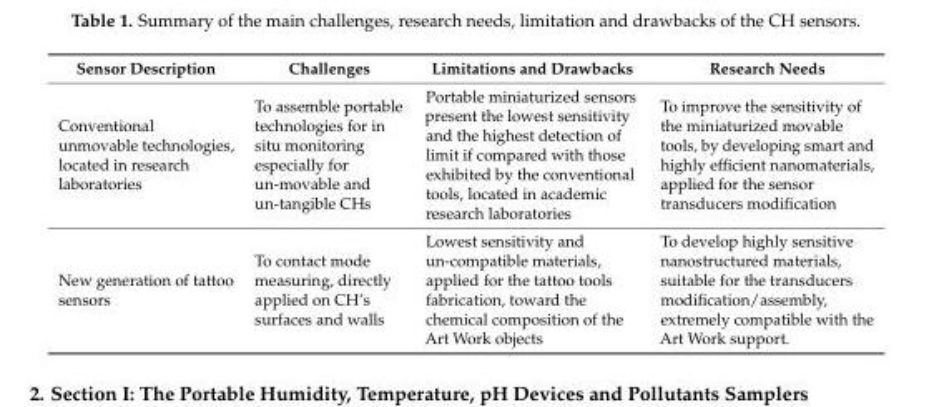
<table><thead><tr><td>Sensor Description</td><td>Challenges</td><td>Limitations and Drawbacks</td><td>Research Needs</td></tr></thead><tbody><tr><td>Conventional unmovable technologies, located in research laboratories</td><td>To assemble portable technologies for in situ monitoring especially for un-movable and un-tangible CHs</td><td>Portable miniaturized sensors present the lowest sensitivity and the highest detection of limit if compared with those exhibited by the conventional tools, located in academic research laboratories</td><td>To improve the sensitivity of the miniaturized movable tools, by developing smart and highly efficient nanomaterials, applied for the sensor transducers modification</td></tr><tr><td>New generation of tattoo sensors</td><td>To contact mode measuring, directly applied on CH’s surfaces and walls</td><td>Lowest sensitivity and un-compatible materials, applied for the tattoo tools fabrication, toward the chemical composition of the Art Work objects</td><td>To develop highly sensitive nanostructured materials, suitable for the transducers modification/assembly, extremely compatible with the Art Work support.</td></tr></tbody></table>